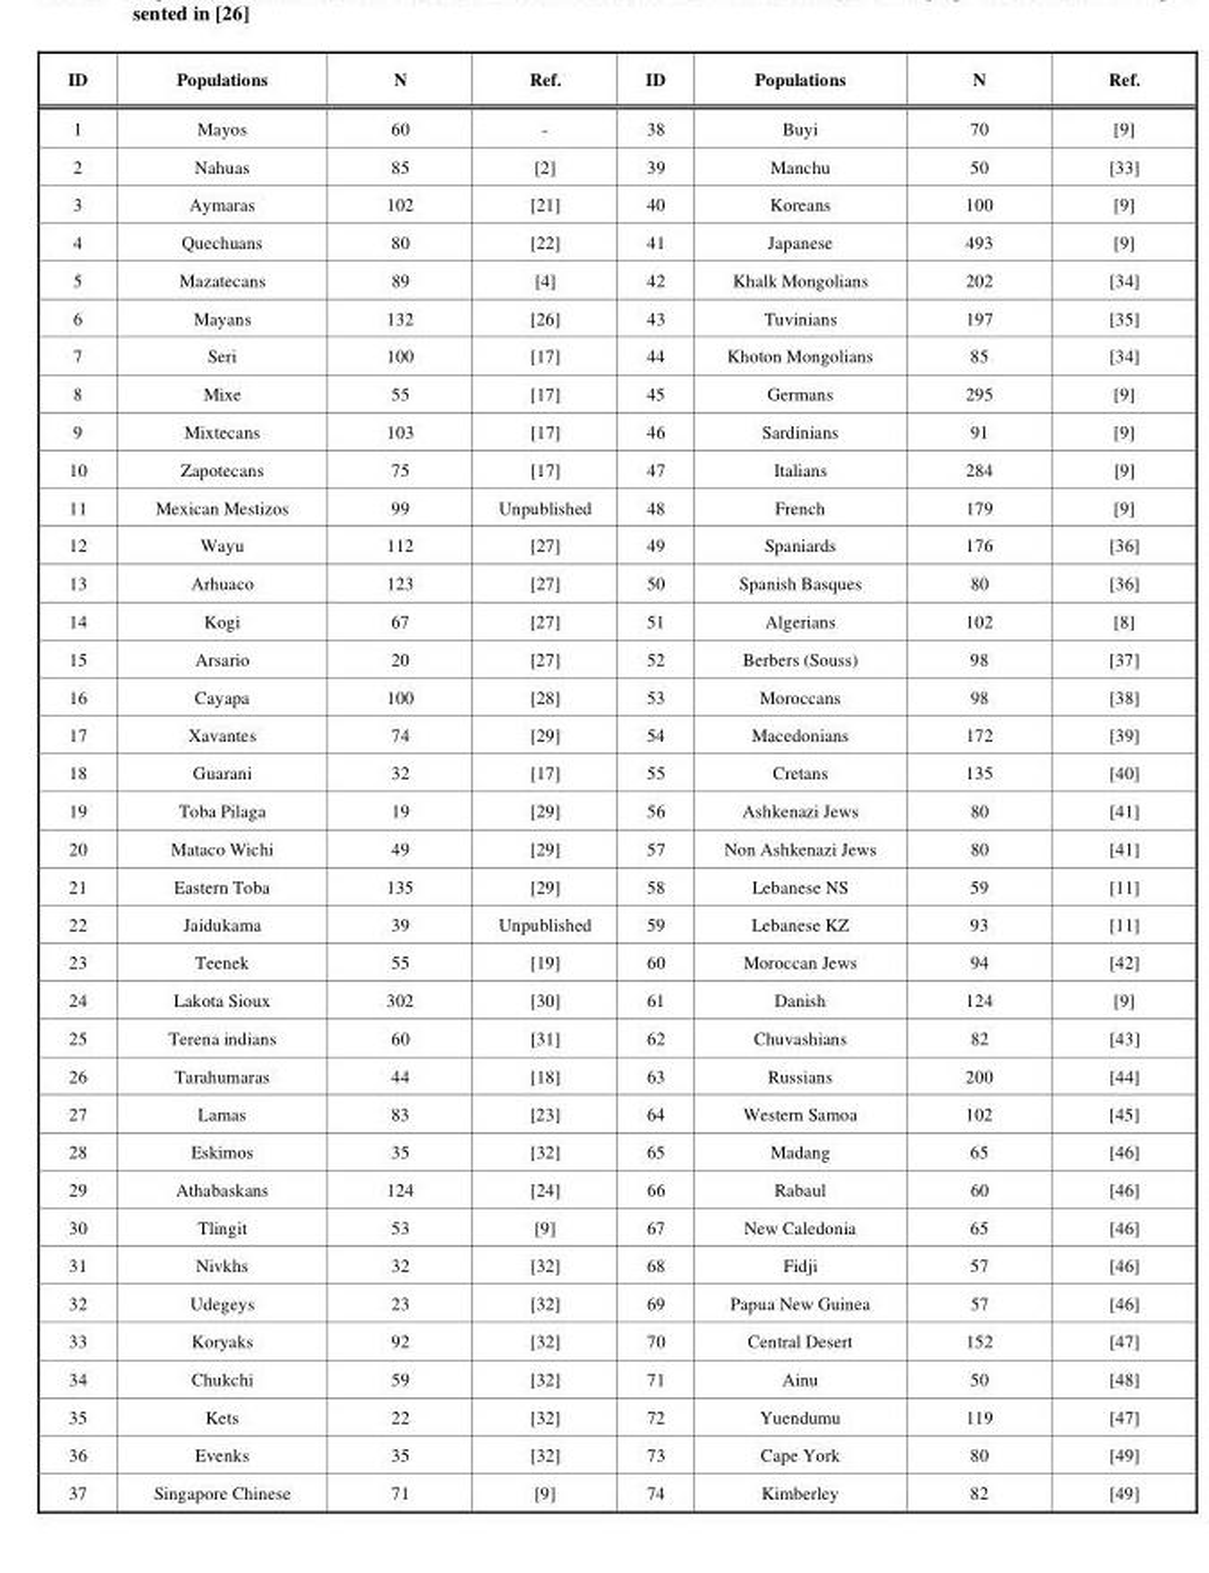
<table><thead><tr><td>ID</td><td>Populations</td><td>N</td><td>Ref.</td><td>ID</td><td>Populations</td><td>N</td><td>Ref.</td></tr></thead><tbody><tr><td>1</td><td>Mayos</td><td>60</td><td>-</td><td>38</td><td>Buyi</td><td>70</td><td>[9]</td></tr><tr><td>2</td><td>Nahuas</td><td>85</td><td>[2]</td><td>39</td><td>Manchu</td><td>50</td><td>[33]</td></tr><tr><td>3</td><td>Aymaras</td><td>102</td><td>[21]</td><td>40</td><td>Koreans</td><td>100</td><td>[9]</td></tr><tr><td>4</td><td>Quechuans</td><td>80</td><td>[22]</td><td>41</td><td>Japanese</td><td>493</td><td>[9]</td></tr><tr><td>5</td><td>Mazatecans</td><td>89</td><td>[4]</td><td>42</td><td>Khalk Mongolians</td><td>202</td><td>[34]</td></tr><tr><td>6</td><td>Mayans</td><td>132</td><td>[26]</td><td>43</td><td>Tuvinians</td><td>197</td><td>[35]</td></tr><tr><td>7</td><td>Seri</td><td>100</td><td>[17]</td><td>44</td><td>Khoton Mongolians</td><td>85</td><td>[34]</td></tr><tr><td>8</td><td>Mixe</td><td>55</td><td>[17]</td><td>45</td><td>Germans</td><td>295</td><td>[9]</td></tr><tr><td>9</td><td>Mixtecans</td><td>103</td><td>[17]</td><td>46</td><td>Sardinians</td><td>91</td><td>[9]</td></tr><tr><td>10</td><td>Zapotecans</td><td>75</td><td>[17]</td><td>47</td><td>Italians</td><td>284</td><td>[9]</td></tr><tr><td>11</td><td>Mexican Mestizos</td><td>99</td><td>Unpublished</td><td>48</td><td>French</td><td>179</td><td>[9]</td></tr><tr><td>12</td><td>Wayu</td><td>112</td><td>[27]</td><td>49</td><td>Spaniards</td><td>176</td><td>[36]</td></tr><tr><td>13</td><td>Arhuaco</td><td>123</td><td>[27]</td><td>50</td><td>Spanish Basques</td><td>80</td><td>[36]</td></tr><tr><td>14</td><td>Kogi</td><td>67</td><td>[27]</td><td>51</td><td>Algerians</td><td>102</td><td>[8]</td></tr><tr><td>15</td><td>Arsario</td><td>20</td><td>[27]</td><td>52</td><td>Berbers (Souss)</td><td>98</td><td>[37]</td></tr><tr><td>16</td><td>Cayapa</td><td>100</td><td>[28]</td><td>53</td><td>Moroccans</td><td>98</td><td>[38]</td></tr><tr><td>17</td><td>Xavantes</td><td>74</td><td>[29]</td><td>54</td><td>Macedonians</td><td>172</td><td>[39]</td></tr><tr><td>18</td><td>Guarani</td><td>32</td><td>[17]</td><td>55</td><td>Cretans</td><td>135</td><td>[40]</td></tr><tr><td>19</td><td>Toba Pilaga</td><td>19</td><td>[29]</td><td>56</td><td>Ashkenazi Jews</td><td>80</td><td>[41]</td></tr><tr><td>20</td><td>Mataco Wichi</td><td>49</td><td>[29]</td><td>57</td><td>Non Ashkenazi Jews</td><td>80</td><td>[41]</td></tr><tr><td>21</td><td>Eastern Toba</td><td>135</td><td>[29]</td><td>58</td><td>Lebanese NS</td><td>59</td><td>[11]</td></tr><tr><td>22</td><td>Jaidukama</td><td>39</td><td>Unpublished</td><td>59</td><td>Lebanese KZ</td><td>93</td><td>[11]</td></tr><tr><td>23</td><td>Teenek</td><td>55</td><td>[19]</td><td>60</td><td>Moroccan Jews</td><td>94</td><td>[42]</td></tr><tr><td>24</td><td>Lakota Sioux</td><td>302</td><td>[30]</td><td>61</td><td>Danish</td><td>124</td><td>[9]</td></tr><tr><td>25</td><td>Terena indians</td><td>60</td><td>[31]</td><td>62</td><td>Chuvashians</td><td>82</td><td>[43]</td></tr><tr><td>26</td><td>Tarahumaras</td><td>44</td><td>[18]</td><td>63</td><td>Russians</td><td>200</td><td>[44]</td></tr><tr><td>27</td><td>Lamas</td><td>83</td><td>[23]</td><td>64</td><td>Western Samoa</td><td>102</td><td>[45]</td></tr><tr><td>28</td><td>Eskimos</td><td>35</td><td>[32]</td><td>65</td><td>Madang</td><td>65</td><td>[46]</td></tr><tr><td>29</td><td>Athabaskans</td><td>124</td><td>[24]</td><td>66</td><td>Rabaul</td><td>60</td><td>[46]</td></tr><tr><td>30</td><td>Tlingit</td><td>53</td><td>[9]</td><td>67</td><td>New Caledonia</td><td>65</td><td>[46]</td></tr><tr><td>31</td><td>Nivkhs</td><td>32</td><td>[32]</td><td>68</td><td>Fidji</td><td>57</td><td>[46]</td></tr><tr><td>32</td><td>Udegeys</td><td>23</td><td>[32]</td><td>69</td><td>Papua New Guinea</td><td>57</td><td>[46]</td></tr><tr><td>33</td><td>Koryaks</td><td>92</td><td>[32]</td><td>70</td><td>Central Desert</td><td>152</td><td>[47]</td></tr><tr><td>34</td><td>Chukchi</td><td>59</td><td>[32]</td><td>71</td><td>Ainu</td><td>50</td><td>[48]</td></tr><tr><td>35</td><td>Kets</td><td>22</td><td>[32]</td><td>72</td><td>Yuendumu</td><td>119</td><td>[47]</td></tr><tr><td>36</td><td>Evenks</td><td>35</td><td>[32]</td><td>73</td><td>Cape York</td><td>80</td><td>[49]</td></tr><tr><td>37</td><td>Singapore Chinese</td><td>71</td><td>[9]</td><td>74</td><td>Kimberley</td><td>82</td><td>[49]</td></tr></tbody></table>